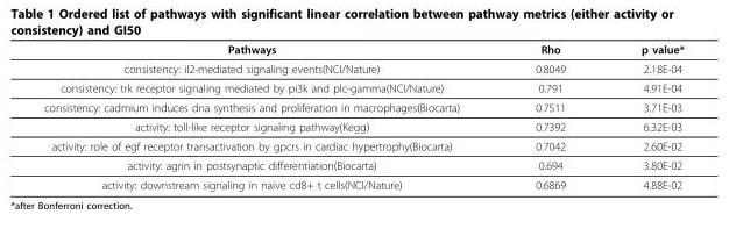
<table><thead><tr><td>Pathways</td><td>Rho</td><td>p value*</td></tr></thead><tbody><tr><td>consistency: il2-mediated signaling events(NCI/Nature)</td><td>0.8049</td><td>2.18E-04</td></tr><tr><td>consistency: trk receptor signaling mediated by pi3k and plc-gamma(NCI/Nature)</td><td>0.791</td><td>4.91E-04</td></tr><tr><td>consistency: cadmium induces dna synthesis and proliferation in macrophages(Biocarta)</td><td>0.7511</td><td>3.71E-03</td></tr><tr><td>activity: toll-like receptor signaling pathway(Kegg)</td><td>0.7392</td><td>6.32E-03</td></tr><tr><td>activity: role of egf receptor transactivation by gpcrs in cardiac hypertrophy(Biocarta)</td><td>0.7042</td><td>2.60E-02</td></tr><tr><td>activity: agrin in postsynaptic differentiation(Biocarta)</td><td>0.694</td><td>3.80E-02</td></tr><tr><td>activity: downstream signaling in naïve cd8+ t cells(NCI/Nature)</td><td>0.6869</td><td>4.88E-02</td></tr></tbody></table>